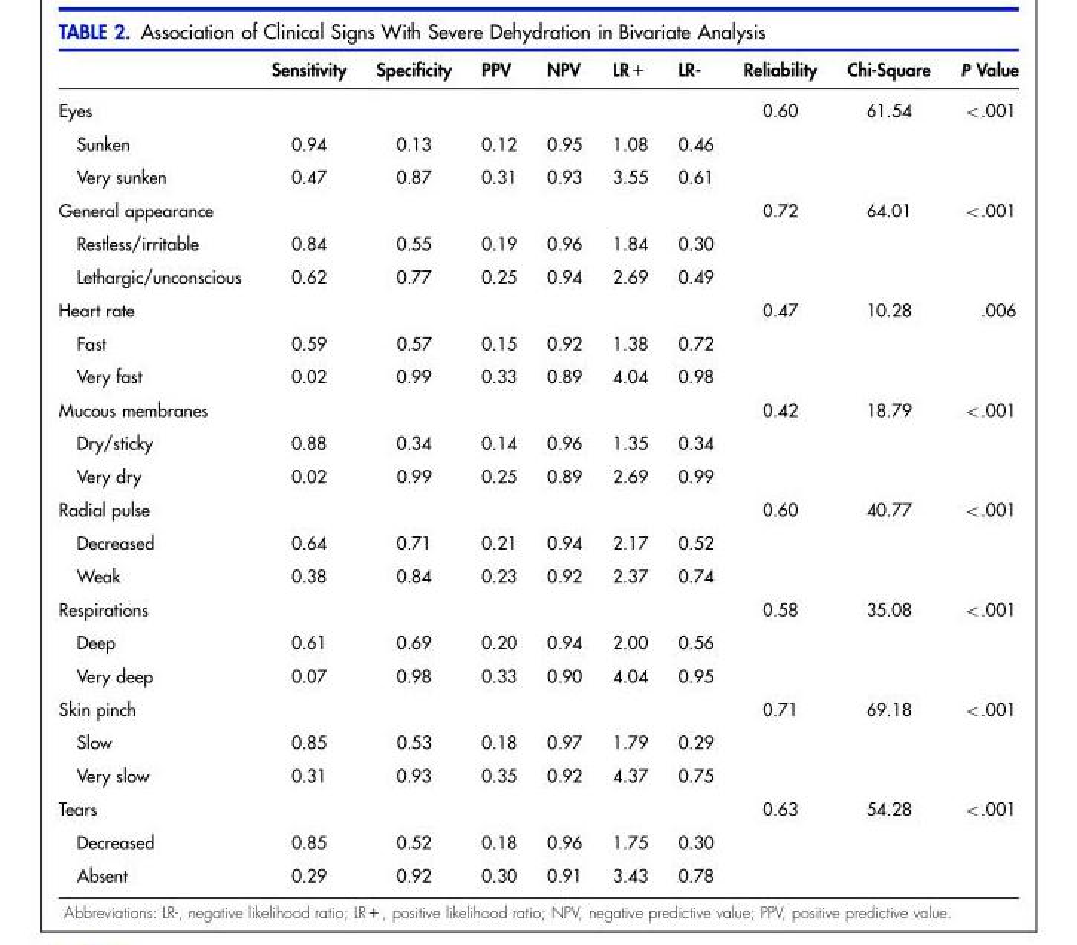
<table><thead><tr><td></td><td>Sensitivity</td><td>Specificity</td><td>PPV</td><td>NPV</td><td>LR+</td><td>LR-</td><td>Reliability</td><td>Chi-Square</td><td>P Value</td></tr></thead><tbody><tr><td>Eyes</td><td></td><td></td><td></td><td></td><td></td><td></td><td>0.60</td><td>61.54</td><td>&lt;.001</td></tr><tr><td>Sunken</td><td>0.94</td><td>0.13</td><td>0.12</td><td>0.95</td><td>1.08</td><td>0.46</td><td></td><td></td><td></td></tr><tr><td>Very sunken</td><td>0.47</td><td>0.87</td><td>0.31</td><td>0.93</td><td>3.55</td><td>0.61</td><td></td><td></td><td></td></tr><tr><td>General appearance</td><td></td><td></td><td></td><td></td><td></td><td></td><td>0.72</td><td>64.01</td><td>&lt;.001</td></tr><tr><td>Restless/irritable</td><td>0.84</td><td>0.55</td><td>0.19</td><td>0.96</td><td>1.84</td><td>0.30</td><td></td><td></td><td></td></tr><tr><td>Lethargic/unconscious</td><td>0.62</td><td>0.77</td><td>0.25</td><td>0.94</td><td>2.69</td><td>0.49</td><td></td><td></td><td></td></tr><tr><td>Heart rate</td><td></td><td></td><td></td><td></td><td></td><td></td><td>0.47</td><td>10.28</td><td>.006</td></tr><tr><td>Fast</td><td>0.59</td><td>0.57</td><td>0.15</td><td>0.92</td><td>1.38</td><td>0.72</td><td></td><td></td><td></td></tr><tr><td>Very fast</td><td>0.02</td><td>0.99</td><td>0.33</td><td>0.89</td><td>4.04</td><td>0.98</td><td></td><td></td><td></td></tr><tr><td>Mucous membranes</td><td></td><td></td><td></td><td></td><td></td><td></td><td>0.42</td><td>18.79</td><td>&lt;.001</td></tr><tr><td>Dry/sticky</td><td>0.88</td><td>0.34</td><td>0.14</td><td>0.96</td><td>1.35</td><td>0.34</td><td></td><td></td><td></td></tr><tr><td>Very dry</td><td>0.02</td><td>0.99</td><td>0.25</td><td>0.89</td><td>2.69</td><td>0.99</td><td></td><td></td><td></td></tr><tr><td>Radial pulse</td><td></td><td></td><td></td><td></td><td></td><td></td><td>0.60</td><td>40.77</td><td>&lt;.001</td></tr><tr><td>Decreased</td><td>0.64</td><td>0.71</td><td>0.21</td><td>0.94</td><td>2.17</td><td>0.52</td><td></td><td></td><td></td></tr><tr><td>Weak</td><td>0.38</td><td>0.84</td><td>0.23</td><td>0.92</td><td>2.37</td><td>0.74</td><td></td><td></td><td></td></tr><tr><td>Respirations</td><td></td><td></td><td></td><td></td><td></td><td></td><td>0.58</td><td>35.08</td><td>&lt;.001</td></tr><tr><td>Deep</td><td>0.61</td><td>0.69</td><td>0.20</td><td>0.94</td><td>2.00</td><td>0.56</td><td></td><td></td><td></td></tr><tr><td>Very deep</td><td>0.07</td><td>0.98</td><td>0.33</td><td>0.90</td><td>4.04</td><td>0.95</td><td></td><td></td><td></td></tr><tr><td>Skin pinch</td><td></td><td></td><td></td><td></td><td></td><td></td><td>0.71</td><td>69.18</td><td>&lt;.001</td></tr><tr><td>Slow</td><td>0.85</td><td>0.53</td><td>0.18</td><td>0.97</td><td>1.79</td><td>0.29</td><td></td><td></td><td></td></tr><tr><td>Very slow</td><td>0.31</td><td>0.93</td><td>0.35</td><td>0.92</td><td>4.37</td><td>0.75</td><td></td><td></td><td></td></tr><tr><td>Tears</td><td></td><td></td><td></td><td></td><td></td><td></td><td>0.63</td><td>54.28</td><td>&lt;.001</td></tr><tr><td>Decreased</td><td>0.85</td><td>0.52</td><td>0.18</td><td>0.96</td><td>1.75</td><td>0.30</td><td></td><td></td><td></td></tr><tr><td>Absent</td><td>0.29</td><td>0.92</td><td>0.30</td><td>0.91</td><td>3.43</td><td>0.78</td><td></td><td></td><td></td></tr></tbody></table>